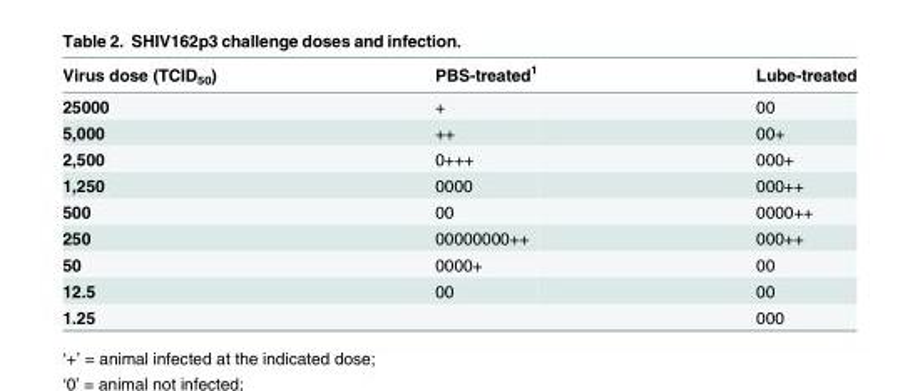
<table><thead><tr><td>Virus dose (TCID<sub>50</sub>)</td><td>PBS-treated<sup>1</sup></td><td>Lube-treated</td></tr></thead><tbody><tr><td>25000</td><td>+</td><td>00</td></tr><tr><td>5,000</td><td>++</td><td>00+</td></tr><tr><td>2,500</td><td>0+++</td><td>000+</td></tr><tr><td>1,250</td><td>0000</td><td>000++</td></tr><tr><td>500</td><td>00</td><td>0000++</td></tr><tr><td>250</td><td>00000000++</td><td>000++</td></tr><tr><td>50</td><td>0000+</td><td>00</td></tr><tr><td>12.5</td><td>00</td><td>00</td></tr><tr><td>1.25</td><td></td><td>000</td></tr></tbody></table>